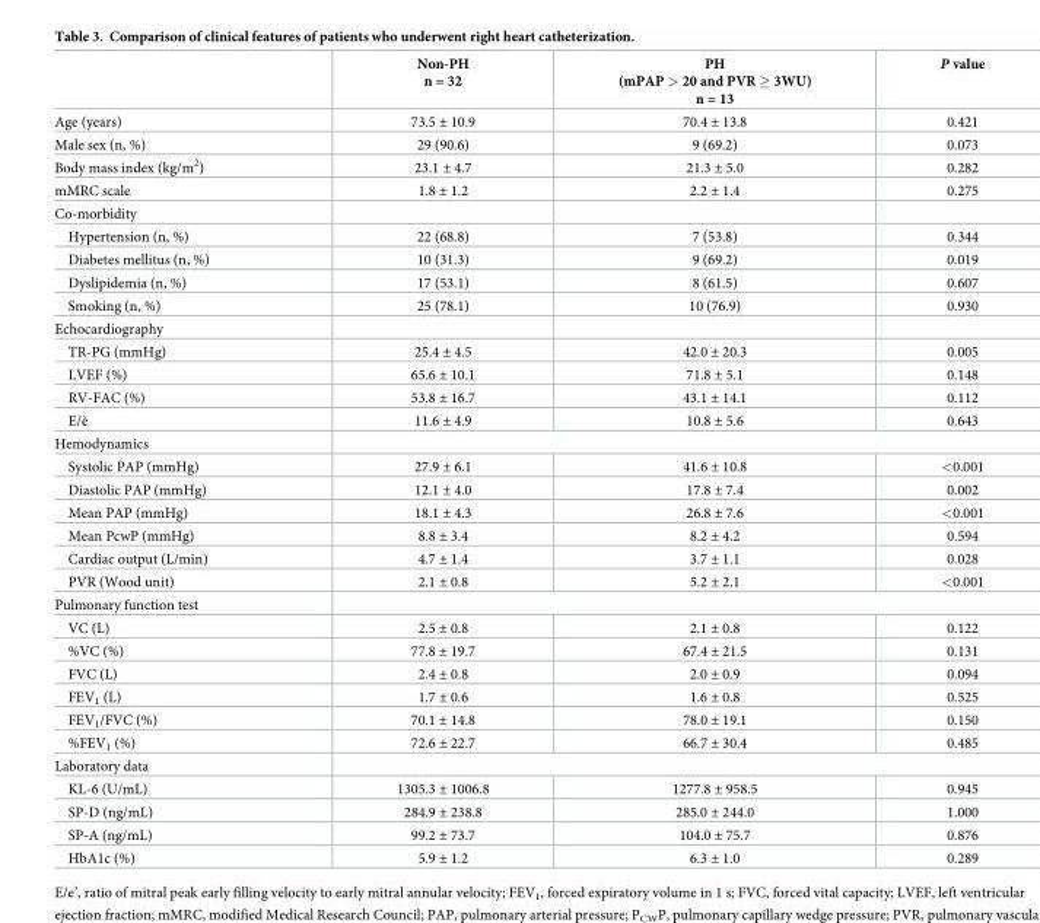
<table><thead><tr><td></td><td>Non-PH n = 32</td><td>PH (mPAP &gt; 20 and PVR ≥ 3WU) n = 13</td><td>P value</td></tr></thead><tbody><tr><td>Age (years)</td><td>73.5 ± 10.9</td><td>70.4 ± 13.8</td><td>0.421</td></tr><tr><td>Male sex (n, %)</td><td>29 (90.6)</td><td>9 (69.2)</td><td>0.073</td></tr><tr><td>Body mass index (kg/m<sup>2</sup>)</td><td>23.1 ± 4.7</td><td>21.3 ± 5.0</td><td>0.282</td></tr><tr><td>mMRC scale</td><td>1.8 ± 1.2</td><td>2.2 ± 1.4</td><td>0.275</td></tr><tr><td colspan="4">Co-morbidity</td></tr><tr><td>Hypertension (n, %)</td><td>22 (68.8)</td><td>7 (53.8)</td><td>0.344</td></tr><tr><td>Diabetes mellitus (n, %)</td><td>10 (31.3)</td><td>9 (69.2)</td><td>0.019</td></tr><tr><td>Dyslipidemia (n, %)</td><td>17 (53.1)</td><td>8 (61.5)</td><td>0.607</td></tr><tr><td>Smoking (n, %)</td><td>25 (78.1)</td><td>10 (76.9)</td><td>0.930</td></tr><tr><td colspan="4">Echocardiography</td></tr><tr><td>TR-PG (mmHg)</td><td>25.4 ± 4.5</td><td>42.0 ± 20.3</td><td>0.005</td></tr><tr><td>LVEF (%)</td><td>65.6 ± 10.1</td><td>71.8 ± 5.1</td><td>0.148</td></tr><tr><td>RV-FAC (%)</td><td>53.8 ± 16.7</td><td>43.1 ± 14.1</td><td>0.112</td></tr><tr><td>E/è</td><td>11.6 ± 4.9</td><td>10.8 ± 5.6</td><td>0.643</td></tr><tr><td colspan="4">Hemodynamics</td></tr><tr><td>Systolic PAP (mmHg)</td><td>27.9 ± 6.1</td><td>41.6 ± 10.8</td><td>&lt;0.001</td></tr><tr><td>Diastolic PAP (mmHg)</td><td>12.1 ± 4.0</td><td>17.8 ± 7.4</td><td>0.002</td></tr><tr><td>Mean PAP (mmHg)</td><td>18.1 ± 4.3</td><td>26.8 ± 7.6</td><td>&lt;0.001</td></tr><tr><td>Mean PcwP (mmHg)</td><td>8.8 ± 3.4</td><td>8.2 ± 4.2</td><td>0.594</td></tr><tr><td>Cardiac output (L/min)</td><td>4.7 ± 1.4</td><td>3.7 ± 1.1</td><td>0.028</td></tr><tr><td>PVR (Wood unit)</td><td>2.1 ± 0.8</td><td>5.2 ± 2.1</td><td>&lt;0.001</td></tr><tr><td colspan="4">Pulmonary function test</td></tr><tr><td>VC (L)</td><td>2.5 ± 0.8</td><td>2.1 ± 0.8</td><td>0.122</td></tr><tr><td>%VC (%)</td><td>77.8 ± 19.7</td><td>67.4 ± 21.5</td><td>0.131</td></tr><tr><td>FVC (L)</td><td>2.4 ± 0.8</td><td>2.0 ± 0.9</td><td>0.094</td></tr><tr><td>FEV<sub>1</sub> (L)</td><td>1.7 ± 0.6</td><td>1.6 ± 0.8</td><td>0.525</td></tr><tr><td>FEV<sub>1</sub>/FVC (%)</td><td>70.1 ± 14.8</td><td>78.0 ± 19.1</td><td>0.150</td></tr><tr><td>%FEV<sub>1</sub> (%)</td><td>72.6 ± 22.7</td><td>66.7 ± 30.4</td><td>0.485</td></tr><tr><td colspan="4">Laboratory data</td></tr><tr><td>KL-6 (U/mL)</td><td>1305.3 ± 1006.8</td><td>1277.8 ± 958.5</td><td>0.945</td></tr><tr><td>SP-D (ng/mL)</td><td>284.9 ± 238.8</td><td>285.0 ± 244.0</td><td>1.000</td></tr><tr><td>SP-A (ng/mL)</td><td>99.2 ± 73.7</td><td>104.0 ± 75.7</td><td>0.876</td></tr><tr><td>HbA1c (%)</td><td>5.9 ± 1.2</td><td>6.3 ± 1.0</td><td>0.289</td></tr></tbody></table>